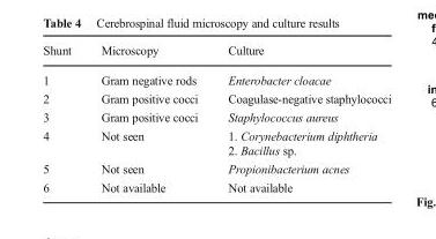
<table><thead><tr><td>Shunt</td><td>Microscopy</td><td>Culture</td></tr></thead><tbody><tr><td>1</td><td>Gram negative rods</td><td>Enterobacter cloacae</td></tr><tr><td>2</td><td>Gram positive cocci</td><td>Coagulase-negative staphylococci</td></tr><tr><td>3</td><td>Gram positive cocci</td><td>Staphylococcus aureus</td></tr><tr><td>4</td><td>Not seen</td><td>1. Corynebacterium diphtheria 2. Bacillus sp.</td></tr><tr><td>5</td><td>Not seen</td><td>Propionibacterium acnes</td></tr><tr><td>6</td><td>Not available</td><td>Not available</td></tr></tbody></table>